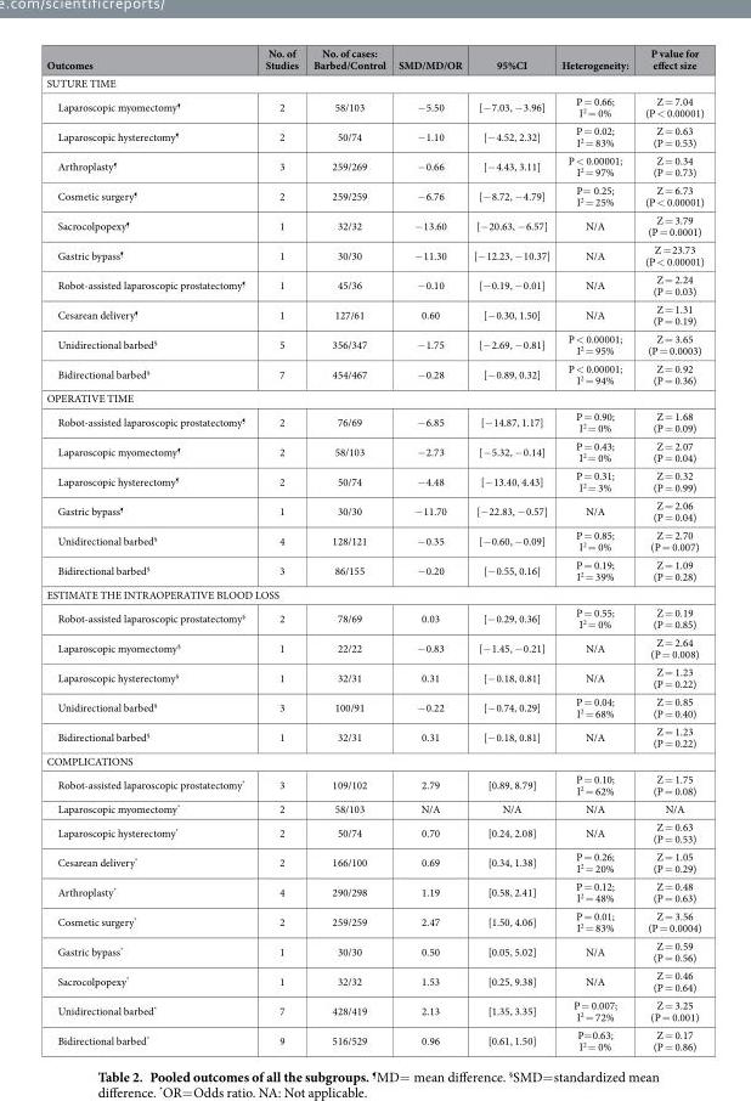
<table><thead><tr><td>Outcomes</td><td>No. of Studies</td><td>No. of cases: Barbed/Control</td><td>SMD/MD/OR</td><td>95%CI</td><td>Heterogeneity:</td><td>P value for effect size</td></tr></thead><tbody><tr><td colspan="7">SUTURE TIME</td></tr><tr><td>Laparoscopic myomectomy¶</td><td>2</td><td>58/103</td><td>− 5.50</td><td>[− 7.03, − 3.96]</td><td>P = 0.66; I<sup>2</sup> = 0%</td><td>Z = 7.04 (P &lt; 0.00001)</td></tr><tr><td>Laparoscopic hysterectomy¶</td><td>2</td><td>50/74</td><td>− 1.10</td><td>[− 4.52, 2.32]</td><td>P = 0.02; I<sup>2</sup> = 83%</td><td>Z = 0.63 (P = 0.53)</td></tr><tr><td>Arthroplasty¶</td><td>3</td><td>259/269</td><td>− 0.66</td><td>[− 4.43, 3.11]</td><td>P &lt; 0.00001; I<sup>2</sup> = 97%</td><td>Z = 0.34 (P = 0.73)</td></tr><tr><td>Cosmetic surgery¶</td><td>2</td><td>259/259</td><td>− 6.76</td><td>[− 8.72, − 4.79]</td><td>P= 0.25; I<sup>2</sup> = 25%</td><td>Z = 6.73 (P &lt; 0.00001)</td></tr><tr><td>Sacrocolpopexy¶</td><td>1</td><td>32/32</td><td>− 13.60</td><td>[− 20.63, − 6.57]</td><td>N/A</td><td>Z = 3.79 (P = 0.0001)</td></tr><tr><td>Gastric bypass¶</td><td>1</td><td>30/30</td><td>− 11.30</td><td>[− 12.23, − 10.37]</td><td>N/A</td><td>Z = 23.73 (P &lt; 0.00001)</td></tr><tr><td>Robot-assisted laparoscopic prostatectomy¶</td><td>1</td><td>45/36</td><td>− 0.10</td><td>[− 0.19, − 0.01]</td><td>N/A</td><td>Z = 2.24 (P = 0.03)</td></tr><tr><td>Cesarean delivery¶</td><td>1</td><td>127/61</td><td>0.60</td><td>[− 0.30, 1.50]</td><td>N/A</td><td>Z = 1.31 (P = 0.19)</td></tr><tr><td>Unidirectional barbed§</td><td>5</td><td>356/347</td><td>− 1.75</td><td>[− 2.69, − 0.81]</td><td>P &lt; 0.00001; I<sup>2</sup> = 95%</td><td>Z = 3.65 (P = 0.0003)</td></tr><tr><td>Bidirectional barbed§</td><td>7</td><td>454/467</td><td>− 0.28</td><td>[− 0.89, 0.32]</td><td>P &lt; 0.00001; I<sup>2</sup> = 94%</td><td>Z = 0.92 (P = 0.36)</td></tr><tr><td colspan="7">OPERATIVE TIME</td></tr><tr><td>Robot-assisted laparoscopic prostatectomy¶</td><td>2</td><td>76/69</td><td>− 6.85</td><td>[− 14.87, 1.17]</td><td>P = 0.90; I<sup>2</sup> = 0%</td><td>Z = 1.68 (P = 0.09)</td></tr><tr><td>Laparoscopic myomectomy¶</td><td>2</td><td>58/103</td><td>− 2.73</td><td>[− 5.32, − 0.14]</td><td>P = 0.43; I<sup>2</sup> = 0%</td><td>Z = 2.07 (P = 0.04)</td></tr><tr><td>Laparoscopic hysterectomy¶</td><td>2</td><td>50/74</td><td>− 4.48</td><td>[− 13.40, 4.43]</td><td>P = 0.31; I<sup>2</sup> = 3%</td><td>Z = 0.32 (P = 0.99)</td></tr><tr><td>Gastric bypass¶</td><td>1</td><td>30/30</td><td>− 11.70</td><td>[− 22.83, − 0.57]</td><td>N/A</td><td>Z = 2.06 (P = 0.04)</td></tr><tr><td>Unidirectional barbed§</td><td>4</td><td>128/121</td><td>− 0.35</td><td>[− 0.60, − 0.09]</td><td>P = 0.85; I<sup>2</sup> = 0%</td><td>Z = 2.70 (P = 0.007)</td></tr><tr><td>Bidirectional barbed§</td><td>3</td><td>86/155</td><td>− 0.20</td><td>[− 0.55, 0.16]</td><td>P = 0.19; I<sup>2</sup> = 39%</td><td>Z = 1.09 (P = 0.28)</td></tr><tr><td colspan="7">ESTIMATE THE INTRAOPERATIVE BLOOD LOSS</td></tr><tr><td>Robot-assisted laparoscopic prostatectomy§</td><td>2</td><td>78/69</td><td>0.03</td><td>[− 0.29, 0.36]</td><td>P = 0.55; I<sup>2</sup> = 0%</td><td>Z = 0.19 (P = 0.85)</td></tr><tr><td>Laparoscopic myomectomy§</td><td>1</td><td>22/22</td><td>− 0.83</td><td>[− 1.45, − 0.21]</td><td>N/A</td><td>Z = 2.64 (P = 0.008)</td></tr><tr><td>Laparoscopic hysterectomy§</td><td>1</td><td>32/31</td><td>0.31</td><td>[− 0.18, 0.81]</td><td>N/A</td><td>Z = 1.23 (P = 0.22)</td></tr><tr><td>Unidirectional barbed§</td><td>3</td><td>100/91</td><td>− 0.22</td><td>[− 0.74, 0.29]</td><td>P = 0.04; I<sup>2</sup> = 68%</td><td>Z = 0.85 (P = 0.40)</td></tr><tr><td>Bidirectional barbed§</td><td>1</td><td>32/31</td><td>0.31</td><td>[− 0.18, 0.81]</td><td>N/A</td><td>Z = 1.23 (P = 0.22)</td></tr><tr><td colspan="7">COMPLICATIONS</td></tr><tr><td>Robot-assisted laparoscopic prostatectomy*</td><td>3</td><td>109/102</td><td>2.79</td><td>[0.89, 8.79]</td><td>P = 0.10; I<sup>2</sup> = 62%</td><td>Z = 1.75 (P = 0.08)</td></tr><tr><td>Laparoscopic myomectomy*</td><td>2</td><td>58/103</td><td>N/A</td><td>N/A</td><td>N/A</td><td>N/A</td></tr><tr><td>Laparoscopic hysterectomy*</td><td>2</td><td>50/74</td><td>0.70</td><td>[0.24, 2.08]</td><td>N/A</td><td>Z = 0.63 (P = 0.53)</td></tr><tr><td>Cesarean delivery*</td><td>2</td><td>166/100</td><td>0.69</td><td>[0.34, 1.38]</td><td>P = 0.26; I<sup>2</sup> = 20%</td><td>Z = 1.05 (P = 0.29)</td></tr><tr><td>Arthroplasty*</td><td>4</td><td>290/298</td><td>1.19</td><td>[0.58, 2.41]</td><td>P = 0.12; I<sup>2</sup> = 48%</td><td>Z = 0.48 (P = 0.63)</td></tr><tr><td>Cosmetic surgery*</td><td>2</td><td>259/259</td><td>2.47</td><td>[1.50, 4.06]</td><td>P = 0.01; I<sup>2</sup> = 83%</td><td>Z = 3.56 (P = 0.0004)</td></tr><tr><td>Gastric bypass*</td><td>1</td><td>30/30</td><td>0.50</td><td>[0.05, 5.02]</td><td>N/A</td><td>Z = 0.59 (P = 0.56)</td></tr><tr><td>Sacrocolpopexy*</td><td>1</td><td>32/32</td><td>1.53</td><td>[0.25, 9.38]</td><td>N/A</td><td>Z = 0.46 (P = 0.64)</td></tr><tr><td>Unidirectional barbed*</td><td>7</td><td>428/419</td><td>2.13</td><td>[1.35, 3.35]</td><td>P = 0.007; I<sup>2</sup> = 72%</td><td>Z = 3.25 (P = 0.001)</td></tr><tr><td>Bidirectional barbed*</td><td>9</td><td>516/529</td><td>0.96</td><td>[0.61, 1.50]</td><td>P= 0.63; I<sup>2</sup> = 0%</td><td>Z = 0.17 (P = 0.86)</td></tr></tbody></table>